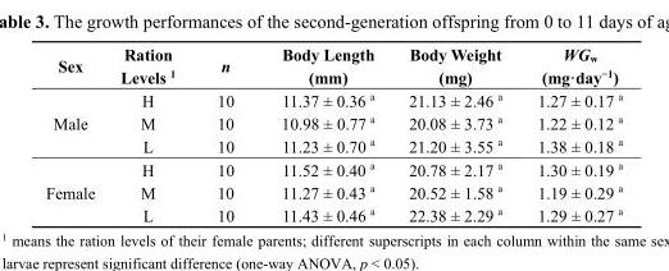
<table><thead><tr><td>Sex</td><td>Ration Levels <sup>1</sup></td><td>n</td><td>Body Length (mm)</td><td>Body Weight (mg)</td><td>WG<sub>w</sub> (mg·day<sup>−1</sup>)</td></tr></thead><tbody><tr><td rowspan="3">Male</td><td>H</td><td>10</td><td>11.37 ± 0.36 <sup>a</sup></td><td>21.13 ± 2.46 <sup>a</sup></td><td>1.27 ± 0.17 <sup>a</sup></td></tr><tr><td>M</td><td>10</td><td>10.98 ± 0.77 <sup>a</sup></td><td>20.08 ± 3.73 <sup>a</sup></td><td>1.22 ± 0.12 <sup>a</sup></td></tr><tr><td>L</td><td>10</td><td>11.23 ± 0.70 <sup>a</sup></td><td>21.20 ± 3.55 <sup>a</sup></td><td>1.38 ± 0.18 <sup>a</sup></td></tr><tr><td rowspan="3">Female</td><td>H</td><td>10</td><td>11.52 ± 0.40 <sup>a</sup></td><td>20.78 ± 2.17 <sup>a</sup></td><td>1.30 ± 0.19 <sup>a</sup></td></tr><tr><td>M</td><td>10</td><td>11.27 ± 0.43 <sup>a</sup></td><td>20.52 ± 1.58 <sup>a</sup></td><td>1.19 ± 0.29 <sup>a</sup></td></tr><tr><td>L</td><td>10</td><td>11.43 ± 0.46 <sup>a</sup></td><td>22.38 ± 2.29 <sup>a</sup></td><td>1.29 ± 0.27 <sup>a</sup></td></tr></tbody></table>